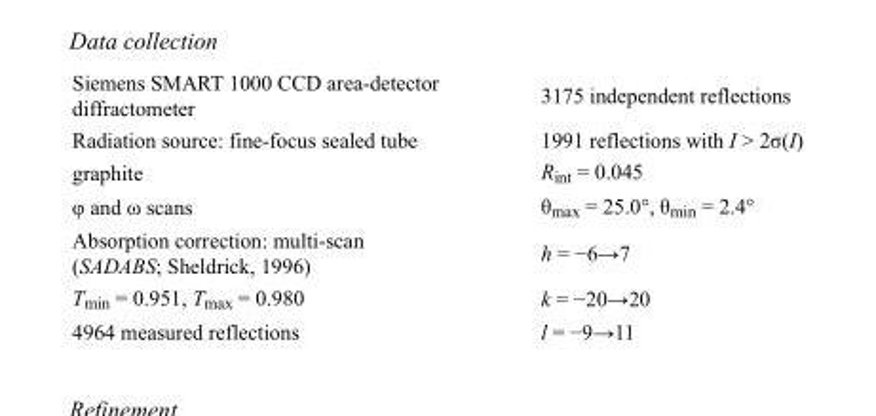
<table><tbody><tr><td>Siemens SMART 1000 CCD area-detector diffractometer</td><td>3175 independent reflections</td></tr><tr><td>Radiation source: fine-focus sealed tube</td><td>1991 reflections with I &gt; 2σ(I)</td></tr><tr><td>graphite</td><td>R<sub>int</sub> = 0.045</td></tr><tr><td>φ and ω scans</td><td>θ<sub>max</sub> = 25.0°, θ<sub>min</sub> = 2.4°</td></tr><tr><td>Absorption correction: multi-scan (SADABS; Sheldrick, 1996)</td><td>h = −6→7</td></tr><tr><td>T<sub>min</sub> = 0.951, T<sub>max</sub> = 0.980</td><td>k = −20→20</td></tr><tr><td>4964 measured reflections</td><td>l = −9→11</td></tr></tbody></table>